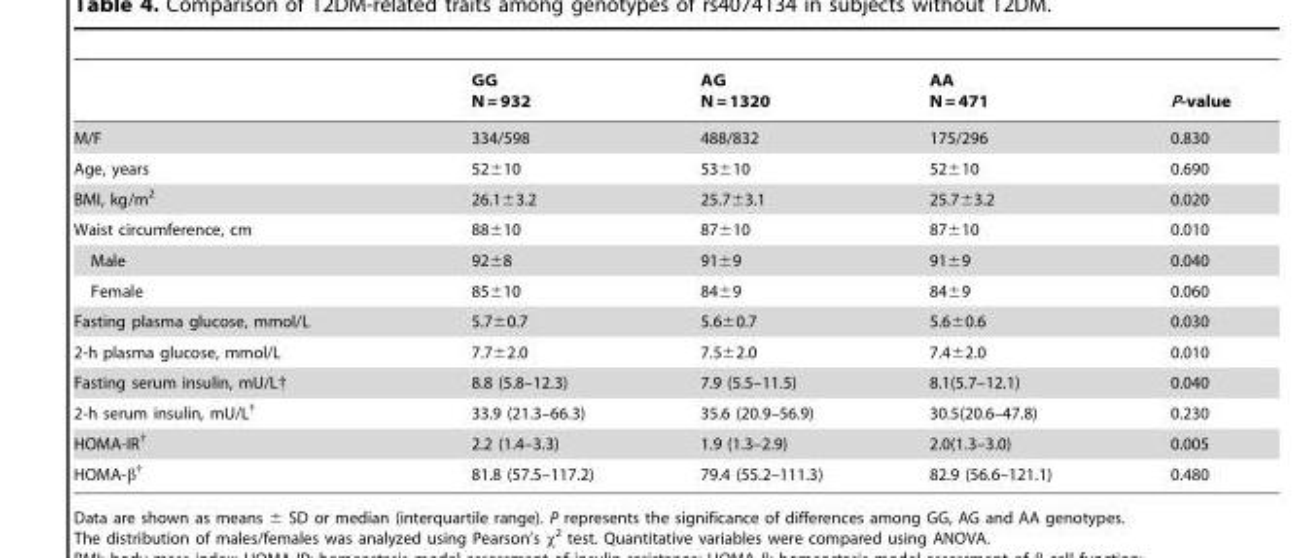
<table><thead><tr><td></td><td>GG N = 932</td><td>AG N = 1320</td><td>AA N = 471</td><td>P-value</td></tr></thead><tbody><tr><td>M/F</td><td>334/598</td><td>488/832</td><td>175/296</td><td>0.830</td></tr><tr><td>Age, years</td><td>52±10</td><td>53±10</td><td>52±10</td><td>0.690</td></tr><tr><td>BMI, kg/m<sup>2</sup></td><td>26.1±3.2</td><td>25.7±3.1</td><td>25.7±3.2</td><td>0.020</td></tr><tr><td>Waist circumference, cm</td><td>88±10</td><td>87±10</td><td>87±10</td><td>0.010</td></tr><tr><td>Male</td><td>92±8</td><td>91±9</td><td>91±9</td><td>0.040</td></tr><tr><td>Female</td><td>85±10</td><td>84±9</td><td>84±9</td><td>0.060</td></tr><tr><td>Fasting plasma glucose, mmol/L</td><td>5.7±0.7</td><td>5.6±0.7</td><td>5.6±0.6</td><td>0.030</td></tr><tr><td>2-h plasma glucose, mmol/L</td><td>7.7±2.0</td><td>7.5±2.0</td><td>7.4±2.0</td><td>0.010</td></tr><tr><td>Fasting serum insulin, mU/L†</td><td>8.8 (5.8–12.3)</td><td>7.9 (5.5–11.5)</td><td>8.1(5.7–12.1)</td><td>0.040</td></tr><tr><td>2-h serum insulin, mU/L†</td><td>33.9 (21.3–66.3)</td><td>35.6 (20.9–56.9)</td><td>30.5(20.6–47.8)</td><td>0.230</td></tr><tr><td>HOMA-IR†</td><td>2.2 (1.4–3.3)</td><td>1.9 (1.3–2.9)</td><td>2.0(1.3–3.0)</td><td>0.005</td></tr><tr><td>HOMA-β†</td><td>81.8 (57.5–117.2)</td><td>79.4 (55.2–111.3)</td><td>82.9 (56.6–121.1)</td><td>0.480</td></tr></tbody></table>